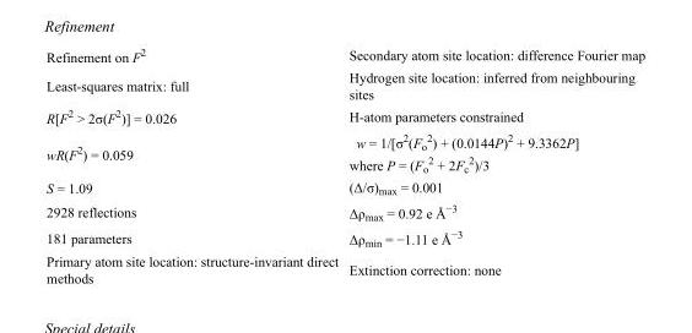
<table><tbody><tr><td>Refinement on F<sup>2</sup></td><td>Secondary atom site location: difference Fourier map</td></tr><tr><td>Least-squares matrix: full</td><td>Hydrogen site location: inferred from neighbouring sites</td></tr><tr><td>R[F<sup>2</sup> &gt; 2σ(F<sup>2</sup>)] = 0.026</td><td>H-atom parameters constrained</td></tr><tr><td>wR(F<sup>2</sup>) = 0.059</td><td>w = 1/[σ<sup>2</sup>(F<sub>o</sub> <sup>2</sup>) + (0.0144P)<sup>2</sup> + 9.3362P] where P = (F<sub>o</sub> <sup>2</sup> + 2F<sub>c</sub> <sup>2</sup>)/3</td></tr><tr><td>S = 1.09</td><td>(Δ/σ)<sub>max</sub> = 0.001</td></tr><tr><td>2928 reflections</td><td>Δρ<sub>max</sub> = 0.92 e Å<sup>−3</sup></td></tr><tr><td>181 parameters</td><td>Δρ<sub>min</sub> = −1.11 e Å<sup>−3</sup></td></tr><tr><td>Primary atom site location: structure-invariant direct methods</td><td>Extinction correction: none</td></tr></tbody></table>